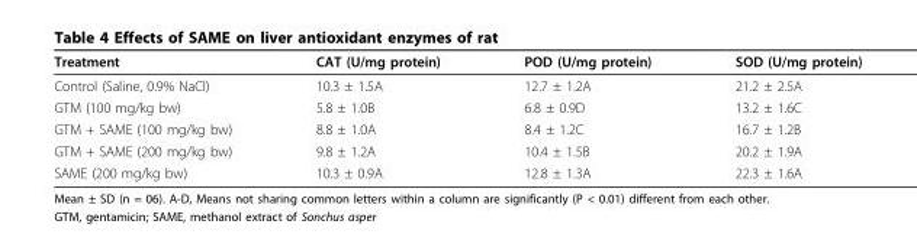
<table><thead><tr><td>Treatment</td><td>CAT (U/mg protein)</td><td>POD (U/mg protein)</td><td>SOD (U/mg protein)</td></tr></thead><tbody><tr><td>Control (Saline, 0.9% NaCl)</td><td>10.3 ± 1.5A</td><td>12.7 ± 1.2A</td><td>21.2 ± 2.5A</td></tr><tr><td>GTM (100 mg/kg bw)</td><td>5.8 ± 1.0B</td><td>6.8 ± 0.9D</td><td>13.2 ± 1.6C</td></tr><tr><td>GTM + SAME (100 mg/kg bw)</td><td>8.8 ± 1.0A</td><td>8.4 ± 1.2C</td><td>16.7 ± 1.2B</td></tr><tr><td>GTM + SAME (200 mg/kg bw)</td><td>9.8 ± 1.2A</td><td>10.4 ± 1.5B</td><td>20.2 ± 1.9A</td></tr><tr><td>SAME (200 mg/kg bw)</td><td>10.3 ± 0.9A</td><td>12.8 ± 1.3A</td><td>22.3 ± 1.6A</td></tr></tbody></table>